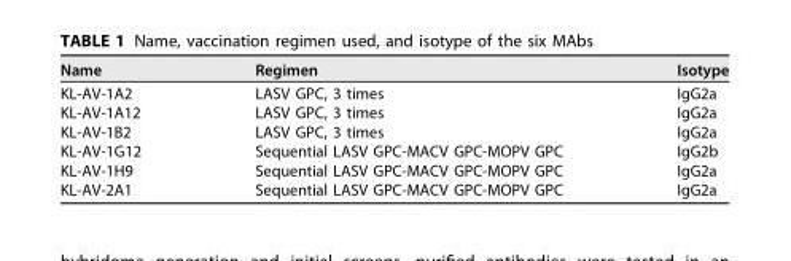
<table><thead><tr><td>Name</td><td>Regimen</td><td>Isotype</td></tr></thead><tbody><tr><td>KL-AV-1A2</td><td>LASV GPC, 3 times</td><td>IgG2a</td></tr><tr><td>KL-AV-1A12</td><td>LASV GPC, 3 times</td><td>IgG2a</td></tr><tr><td>KL-AV-1B2</td><td>LASV GPC, 3 times</td><td>IgG2a</td></tr><tr><td>KL-AV-1G12</td><td>Sequential LASV GPC-MACV GPC-MOPV GPC</td><td>IgG2b</td></tr><tr><td>KL-AV-1H9</td><td>Sequential LASV GPC-MACV GPC-MOPV GPC</td><td>IgG2a</td></tr><tr><td>KL-AV-2A1</td><td>Sequential LASV GPC-MACV GPC-MOPV GPC</td><td>IgG2a</td></tr></tbody></table>